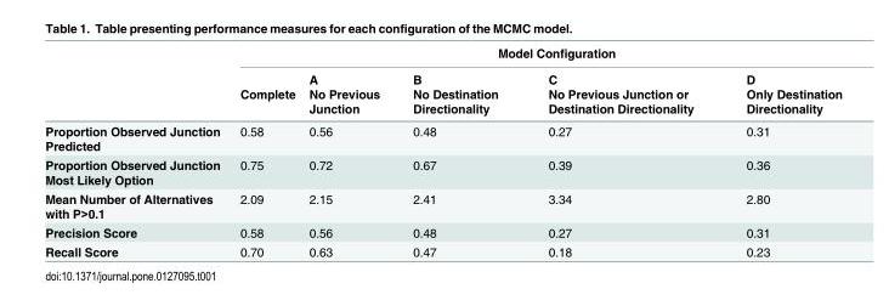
<table><thead><tr><td rowspan="3"></td><td colspan="5">Model Configuration</td></tr><tr><td rowspan="2">Complete</td><td rowspan="2">A No Previous Junction</td><td rowspan="2">B No Destination Directionality</td><td rowspan="2">C No Previous Junction or Destination Directionality</td><td rowspan="2">D Only Destination Directionality</td></tr><tr></tr></thead><tbody><tr><td>Proportion Observed Junction Predicted</td><td>0.58</td><td>0.56</td><td>0.48</td><td>0.27</td><td>0.31</td></tr><tr><td>Proportion Observed Junction Most Likely Option</td><td>0.75</td><td>0.72</td><td>0.67</td><td>0.39</td><td>0.36</td></tr><tr><td>Mean Number of Alternatives with P&gt;0.1</td><td>2.09</td><td>2.15</td><td>2.41</td><td>3.34</td><td>2.80</td></tr><tr><td>Precision Score</td><td>0.58</td><td>0.56</td><td>0.48</td><td>0.27</td><td>0.31</td></tr><tr><td>Recall Score</td><td>0.70</td><td>0.63</td><td>0.47</td><td>0.18</td><td>0.23</td></tr></tbody></table>